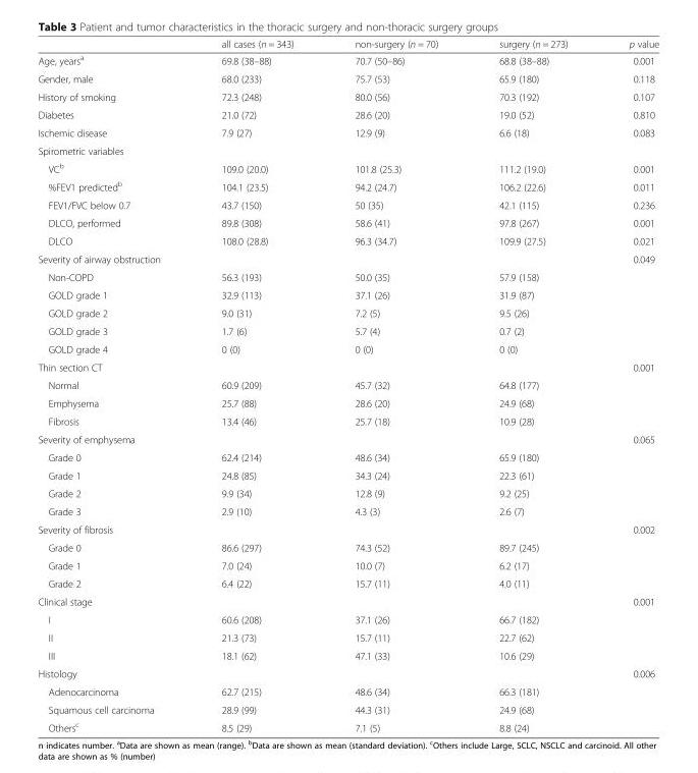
<table><thead><tr><td></td><td>all cases (n = 343)</td><td>non-surgery (n = 70)</td><td>surgery (n = 273)</td><td>p value</td></tr></thead><tbody><tr><td>Age, years<sup>a</sup></td><td>69.8 (38–88)</td><td>70.7 (50–86)</td><td>68.8 (38–88)</td><td>0.001</td></tr><tr><td>Gender, male</td><td>68.0 (233)</td><td>75.7 (53)</td><td>65.9 (180)</td><td>0.118</td></tr><tr><td>History of smoking</td><td>72.3 (248)</td><td>80.0 (56)</td><td>70.3 (192)</td><td>0.107</td></tr><tr><td>Diabetes</td><td>21.0 (72)</td><td>28.6 (20)</td><td>19.0 (52)</td><td>0.810</td></tr><tr><td>Ischemic disease</td><td>7.9 (27)</td><td>12.9 (9)</td><td>6.6 (18)</td><td>0.083</td></tr><tr><td colspan="5">Spirometric variables</td></tr><tr><td>VC<sup>b</sup></td><td>109.0 (20.0)</td><td>101.8 (25.3)</td><td>111.2 (19.0)</td><td>0.001</td></tr><tr><td>%FEV1 predicted<sup>b</sup></td><td>104.1 (23.5)</td><td>94.2 (24.7)</td><td>106.2 (22.6)</td><td>0.011</td></tr><tr><td>FEV1/FVC below 0.7</td><td>43.7 (150)</td><td>50 (35)</td><td>42.1 (115)</td><td>0.236</td></tr><tr><td>DLCO, performed</td><td>89.8 (308)</td><td>58.6 (41)</td><td>97.8 (267)</td><td>0.001</td></tr><tr><td>DLCO</td><td>108.0 (28.8)</td><td>96.3 (34.7)</td><td>109.9 (27.5)</td><td>0.021</td></tr><tr><td>Severity of airway obstruction</td><td></td><td></td><td></td><td>0.049</td></tr><tr><td>Non-COPD</td><td>56.3 (193)</td><td>50.0 (35)</td><td>57.9 (158)</td><td></td></tr><tr><td>GOLD grade 1</td><td>32.9 (113)</td><td>37.1 (26)</td><td>31.9 (87)</td><td></td></tr><tr><td>GOLD grade 2</td><td>9.0 (31)</td><td>7.2 (5)</td><td>9.5 (26)</td><td></td></tr><tr><td>GOLD grade 3</td><td>1.7 (6)</td><td>5.7 (4)</td><td>0.7 (2)</td><td></td></tr><tr><td>GOLD grade 4</td><td>0 (0)</td><td>0 (0)</td><td>0 (0)</td><td></td></tr><tr><td>Thin section CT</td><td></td><td></td><td></td><td>0.001</td></tr><tr><td>Normal</td><td>60.9 (209)</td><td>45.7 (32)</td><td>64.8 (177)</td><td></td></tr><tr><td>Emphysema</td><td>25.7 (88)</td><td>28.6 (20)</td><td>24.9 (68)</td><td></td></tr><tr><td>Fibrosis</td><td>13.4 (46)</td><td>25.7 (18)</td><td>10.9 (28)</td><td></td></tr><tr><td>Severity of emphysema</td><td></td><td></td><td></td><td>0.065</td></tr><tr><td>Grade 0</td><td>62.4 (214)</td><td>48.6 (34)</td><td>65.9 (180)</td><td></td></tr><tr><td>Grade 1</td><td>24.8 (85)</td><td>34.3 (24)</td><td>22.3 (61)</td><td></td></tr><tr><td>Grade 2</td><td>9.9 (34)</td><td>12.8 (9)</td><td>9.2 (25)</td><td></td></tr><tr><td>Grade 3</td><td>2.9 (10)</td><td>4.3 (3)</td><td>2.6 (7)</td><td></td></tr><tr><td>Severity of fibrosis</td><td></td><td></td><td></td><td>0.002</td></tr><tr><td>Grade 0</td><td>86.6 (297)</td><td>74.3 (52)</td><td>89.7 (245)</td><td></td></tr><tr><td>Grade 1</td><td>7.0 (24)</td><td>10.0 (7)</td><td>6.2 (17)</td><td></td></tr><tr><td>Grade 2</td><td>6.4 (22)</td><td>15.7 (11)</td><td>4.0 (11)</td><td></td></tr><tr><td>Clinical stage</td><td></td><td></td><td></td><td>0.001</td></tr><tr><td>I</td><td>60.6 (208)</td><td>37.1 (26)</td><td>66.7 (182)</td><td></td></tr><tr><td>II</td><td>21.3 (73)</td><td>15.7 (11)</td><td>22.7 (62)</td><td></td></tr><tr><td>III</td><td>18.1 (62)</td><td>47.1 (33)</td><td>10.6 (29)</td><td></td></tr><tr><td>Histology</td><td></td><td></td><td></td><td>0.006</td></tr><tr><td>Adenocarcinoma</td><td>62.7 (215)</td><td>48.6 (34)</td><td>66.3 (181)</td><td></td></tr><tr><td>Squamous cell carcinoma</td><td>28.9 (99)</td><td>44.3 (31)</td><td>24.9 (68)</td><td></td></tr><tr><td>Others<sup>c</sup></td><td>8.5 (29)</td><td>7.1 (5)</td><td>8.8 (24)</td><td></td></tr></tbody></table>